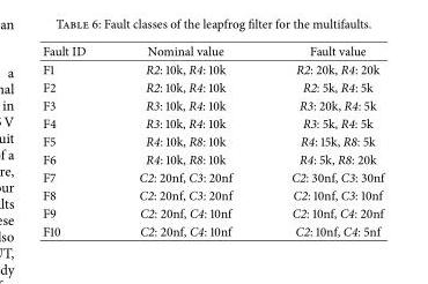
<table><thead><tr><td>Fault ID</td><td>Nominal value</td><td>Fault value</td></tr></thead><tbody><tr><td>F1</td><td>R2: 10k, R4: 10k</td><td>R2: 20k, R4: 20k</td></tr><tr><td>F2</td><td>R2: 10k, R4: 10k</td><td>R2: 5k, R4: 5k</td></tr><tr><td>F3</td><td>R3: 10k, R4: 10k</td><td>R3: 20k, R4: 5k</td></tr><tr><td>F4</td><td>R3: 10k, R4: 10k</td><td>R3: 5k, R4: 5k</td></tr><tr><td>F5</td><td>R4: 10k, R8: 10k</td><td>R4: 15k, R8: 5k</td></tr><tr><td>F6</td><td>R4: 10k, R8: 10k</td><td>R4: 5k, R8: 20k</td></tr><tr><td>F7</td><td>C2: 20nf, C3: 20nf</td><td>C2: 30nf, C3: 30nf</td></tr><tr><td>F8</td><td>C2: 20nf, C3: 20nf</td><td>C2: 10nf, C3: 10nf</td></tr><tr><td>F9</td><td>C2: 20nf, C4: 10nf</td><td>C2: 10nf, C4: 20nf</td></tr><tr><td>F10</td><td>C2: 20nf, C4: 10nf</td><td>C2: 10nf, C4: 5nf</td></tr></tbody></table>